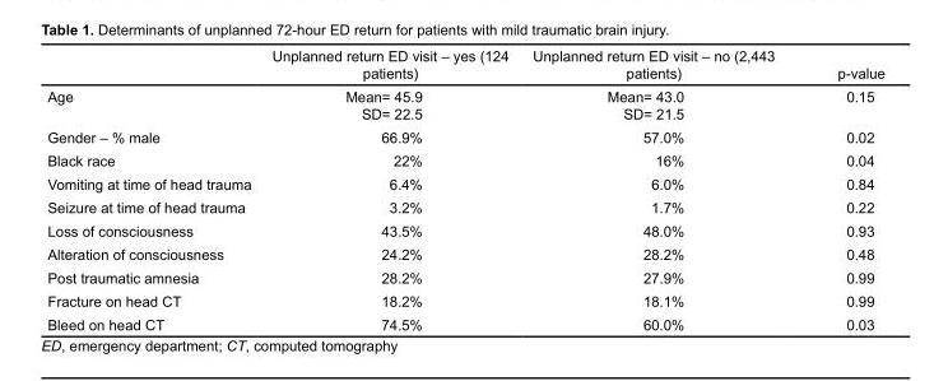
<table><thead><tr><td></td><td>Unplanned return ED visit – yes (124 patients)</td><td>Unplanned return ED visit – no (2,443 patients)</td><td>p-value</td></tr></thead><tbody><tr><td>Age</td><td>Mean= 45.9 SD= 22.5</td><td>Mean= 43.0 SD= 21.5</td><td>0.15</td></tr><tr><td>Gender – % male</td><td>66.9%</td><td>57.0%</td><td>0.02</td></tr><tr><td>Black race</td><td>22%</td><td>16%</td><td>0.04</td></tr><tr><td>Vomiting at time of head trauma</td><td>6.4%</td><td>6.0%</td><td>0.84</td></tr><tr><td>Seizure at time of head trauma</td><td>3.2%</td><td>1.7%</td><td>0.22</td></tr><tr><td>Loss of consciousness</td><td>43.5%</td><td>48.0%</td><td>0.93</td></tr><tr><td>Alteration of consciousness</td><td>24.2%</td><td>28.2%</td><td>0.48</td></tr><tr><td>Post traumatic amnesia</td><td>28.2%</td><td>27.9%</td><td>0.99</td></tr><tr><td>Fracture on head CT</td><td>18.2%</td><td>18.1%</td><td>0.99</td></tr><tr><td>Bleed on head CT</td><td>74.5%</td><td>60.0%</td><td>0.03</td></tr></tbody></table>